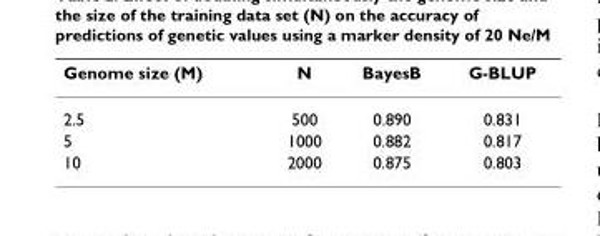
<table><thead><tr><td>Genome size (M)</td><td>N</td><td>BayesB</td><td>G-BLUP</td></tr></thead><tbody><tr><td>2.5</td><td>500</td><td>0.890</td><td>0.831</td></tr><tr><td>5</td><td>1000</td><td>0.882</td><td>0.817</td></tr><tr><td>10</td><td>2000</td><td>0.875</td><td>0.803</td></tr></tbody></table>